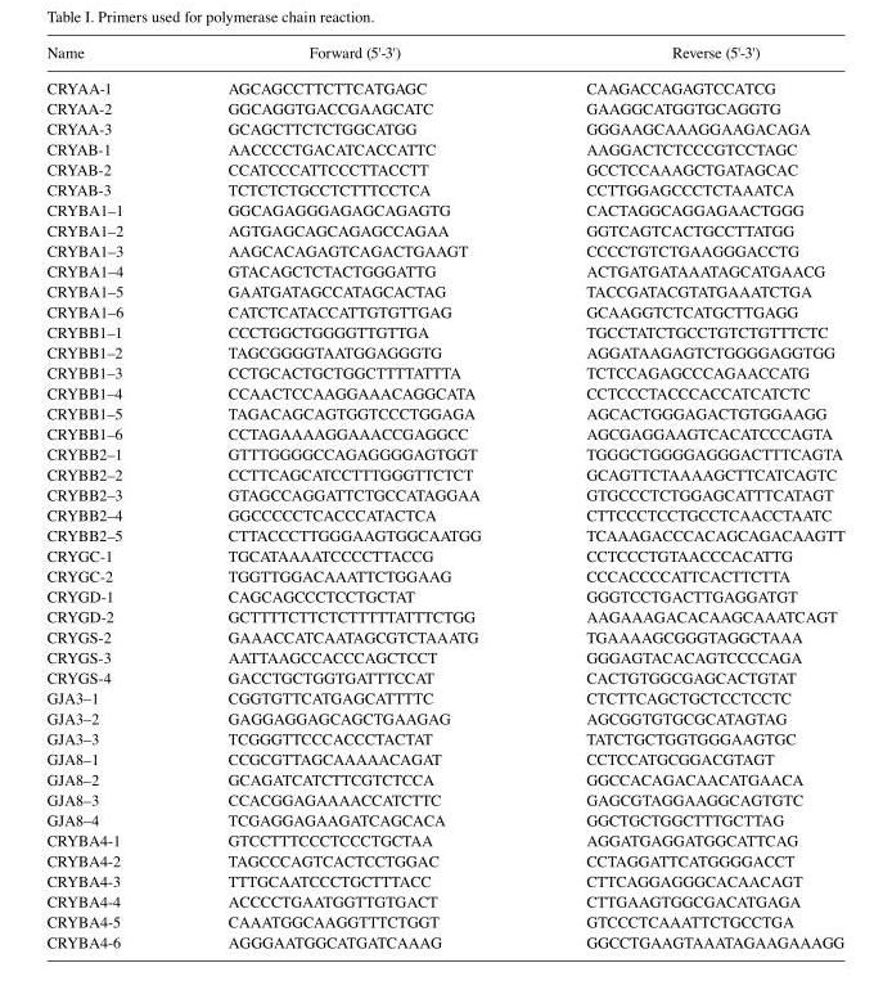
<table><thead><tr><td>Name</td><td>Forward (5&#x27;-3&#x27;)</td><td>Reverse (5&#x27;-3&#x27;)</td></tr></thead><tbody><tr><td>CRYAA-1</td><td>AGCAGCCTTCTTCATGAGC</td><td>CAAGACCAGAGTCCATCG</td></tr><tr><td>CRYAA-2</td><td>GGCAGGTGACCGAAGCATC</td><td>GAAGGCATGGTGCAGGTG</td></tr><tr><td>CRYAA-3</td><td>GCAGCTTCTCTGGCATGG</td><td>GGGAAGCAAAGGAAGACAGA</td></tr><tr><td>CRYAB-1</td><td>AACCCCTGACATCACCATTC</td><td>AAGGACTCTCCCGTCCTAGC</td></tr><tr><td>CRYAB-2</td><td>CCATCCCATTCCCTTACCTT</td><td>GCCTCCAAAGCTGATAGCAC</td></tr><tr><td>CRYAB-3</td><td>TCTCTCTGCCTCTTTCCTCA</td><td>CCTTGGAGCCCTCTAAATCA</td></tr><tr><td>CRYBA1–1</td><td>GGCAGAGGGAGAGCAGAGTG</td><td>CACTAGGCAGGAGAACTGGG</td></tr><tr><td>CRYBA1–2</td><td>AGTGAGCAGCAGAGCCAGAA</td><td>GGTCAGTCACTGCCTTATGG</td></tr><tr><td>CRYBA1–3</td><td>AAGCACAGAGTCAGACTGAAGT</td><td>CCCCTGTCTGAAGGGACCTG</td></tr><tr><td>CRYBA1–4</td><td>GTACAGCTCTACTGGGATTG</td><td>ACTGATGATAAATAGCATGAACG</td></tr><tr><td>CRYBA1–5</td><td>GAATGATAGCCATAGCACTAG</td><td>TACCGATACGTATGAAATCTGA</td></tr><tr><td>CRYBA1–6</td><td>CATCTCATACCATTGTGTTGAG</td><td>GCAAGGTCTCATGCTTGAGG</td></tr><tr><td>CRYBB1–1</td><td>CCCTGGCTGGGGTTGTTGA</td><td>TGCCTATCTGCCTGTCTGTTTCTC</td></tr><tr><td>CRYBB1–2</td><td>TAGCGGGGTAATGGAGGGTG</td><td>AGGATAAGAGTCTGGGGAGGTGG</td></tr><tr><td>CRYBB1–3</td><td>CCTGCACTGCTGGCTTTTATTTA</td><td>TCTCCAGAGCCCAGAACCATG</td></tr><tr><td>CRYBB1–4</td><td>CCAACTCCAAGGAAACAGGCATA</td><td>CCTCCCTACCCACCATCATCTC</td></tr><tr><td>CRYBB1–5</td><td>TAGACAGCAGTGGTCCCTGGAGA</td><td>AGCACTGGGAGACTGTGGAAGG</td></tr><tr><td>CRYBB1–6</td><td>CCTAGAAAAGGAAACCGAGGCC</td><td>AGCGAGGAAGTCACATCCCAGTA</td></tr><tr><td>CRYBB2–1</td><td>GTTTGGGGCCAGAGGGGAGTGGT</td><td>TGGGCTGGGGAGGGACTTTCAGTA</td></tr><tr><td>CRYBB2–2</td><td>CCTTCAGCATCCTTTGGGTTCTCT</td><td>GCAGTTCTAAAAGCTTCATCAGTC</td></tr><tr><td>CRYBB2–3</td><td>GTAGCCAGGATTCTGCCATAGGAA</td><td>GTGCCCTCTGGAGCATTTCATAGT</td></tr><tr><td>CRYBB2–4</td><td>GGCCCCCTCACCCATACTCA</td><td>CTTCCCTCCTGCCTCAACCTAATC</td></tr><tr><td>CRYBB2–5</td><td>CTTACCCTTGGGAAGTGGCAATGG</td><td>TCAAAGACCCACAGCAGACAAGTT</td></tr><tr><td>CRYGC-1</td><td>TGCATAAAATCCCCTTACCG</td><td>CCTCCCTGTAACCCACATTG</td></tr><tr><td>CRYGC-2</td><td>TGGTTGGACAAATTCTGGAAG</td><td>CCCACCCCATTCACTTCTTA</td></tr><tr><td>CRYGD-1</td><td>CAGCAGCCCTCCTGCTAT</td><td>GGGTCCTGACTTGAGGATGT</td></tr><tr><td>CRYGD-2</td><td>GCTTTTCTTCTCTTTTTATTTCTGG</td><td>AAGAAAGACACAAGCAAATCAGT</td></tr><tr><td>CRYGS-2</td><td>GAAACCATCAATAGCGTCTAAATG</td><td>TGAAAAGCGGGTAGGCTAAA</td></tr><tr><td>CRYGS-3</td><td>AATTAAGCCACCCAGCTCCT</td><td>GGGAGTACACAGTCCCCAGA</td></tr><tr><td>CRYGS-4</td><td>GACCTGCTGGTGATTTCCAT</td><td>CACTGTGGCGAGCACTGTAT</td></tr><tr><td>GJA3–1</td><td>CGGTGTTCATGAGCATTTTC</td><td>CTCTTCAGCTGCTCCTCCTC</td></tr><tr><td>GJA3–2</td><td>GAGGAGGAGCAGCTGAAGAG</td><td>AGCGGTGTGCGCATAGTAG</td></tr><tr><td>GJA3–3</td><td>TCGGGTTCCCACCCTACTAT</td><td>TATCTGCTGGTGGGAAGTGC</td></tr><tr><td>GJA8–1</td><td>CCGCGTTAGCAAAAACAGAT</td><td>CCTCCATGCGGACGTAGT</td></tr><tr><td>GJA8–2</td><td>GCAGATCATCTTCGTCTCCA</td><td>GGCCACAGACAACATGAACA</td></tr><tr><td>GJA8–3</td><td>CCACGGAGAAAACCATCTTC</td><td>GAGCGTAGGAAGGCAGTGTC</td></tr><tr><td>GJA8–4</td><td>TCGAGGAGAAGATCAGCACA</td><td>GGCTGCTGGCTTTGCTTAG</td></tr><tr><td>CRYBA4-1</td><td>GTCCTTTCCCTCCCTGCTAA</td><td>AGGATGAGGATGGCATTCAG</td></tr><tr><td>CRYBA4-2</td><td>TAGCCCAGTCACTCCTGGAC</td><td>CCTAGGATTCATGGGGACCT</td></tr><tr><td>CRYBA4-3</td><td>TTTGCAATCCCTGCTTTACC</td><td>CTTCAGGAGGGCACAACAGT</td></tr><tr><td>CRYBA4-4</td><td>ACCCCTGAATGGTTGTGACT</td><td>CTTGAAGTGGCGACATGAGA</td></tr><tr><td>CRYBA4-5</td><td>CAAATGGCAAGGTTTCTGGT</td><td>GTCCCTCAAATTCTGCCTGA</td></tr><tr><td>CRYBA4-6</td><td>AGGGAATGGCATGATCAAAG</td><td>GGCCTGAAGTAAATAGAAGAAAGG</td></tr></tbody></table>